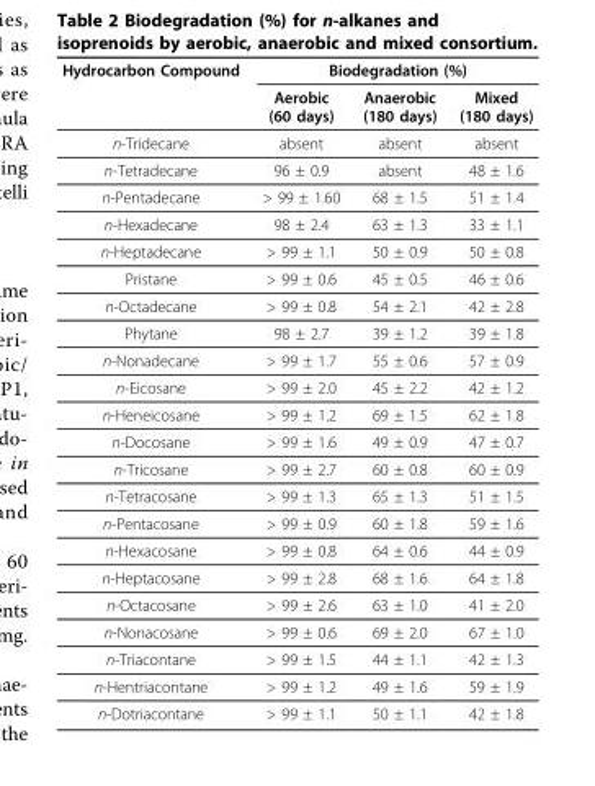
<table><thead><tr><td rowspan="2">Hydrocarbon Compound</td><td colspan="3">Biodegradation (%)</td></tr><tr><td>Aerobic (60 days)</td><td>Anaerobic (180 days)</td><td>Mixed (180 days)</td></tr></thead><tbody><tr><td>n-Tridecane</td><td>absent</td><td>absent</td><td>absent</td></tr><tr><td>n-Tetradecane</td><td>96 ± 0.9</td><td>absent</td><td>48 ± 1.6</td></tr><tr><td>n-Pentadecane</td><td>&gt; 99 ± 1.60</td><td>68 ± 1.5</td><td>51 ± 1.4</td></tr><tr><td>n-Hexadecane</td><td>98 ± 2.4</td><td>63 ± 1.3</td><td>33 ± 1.1</td></tr><tr><td>n-Heptadecane</td><td>&gt; 99 ± 1.1</td><td>50 ± 0.9</td><td>50 ± 0.8</td></tr><tr><td>Pristane</td><td>&gt; 99 ± 0.6</td><td>45 ± 0.5</td><td>46 ± 0.6</td></tr><tr><td>n-Octadecane</td><td>&gt; 99 ± 0.8</td><td>54 ± 2.1</td><td>42 ± 2.8</td></tr><tr><td>Phytane</td><td>98 ± 2.7</td><td>39 ± 1.2</td><td>39 ± 1.8</td></tr><tr><td>n-Nonadecane</td><td>&gt; 99 ± 1.7</td><td>55 ± 0.6</td><td>57 ± 0.9</td></tr><tr><td>n-Eicosane</td><td>&gt; 99 ± 2.0</td><td>45 ± 2.2</td><td>42 ± 1.2</td></tr><tr><td>n-Heneicosane</td><td>&gt; 99 ± 1.2</td><td>69 ± 1.5</td><td>62 ± 1.8</td></tr><tr><td>n-Docosane</td><td>&gt; 99 ± 1.6</td><td>49 ± 0.9</td><td>47 ± 0.7</td></tr><tr><td>n-Tricosane</td><td>&gt; 99 ± 2.7</td><td>60 ± 0.8</td><td>60 ± 0.9</td></tr><tr><td>n-Tetracosane</td><td>&gt; 99 ± 1.3</td><td>65 ± 1.3</td><td>51 ± 1.5</td></tr><tr><td>n-Pentacosane</td><td>&gt; 99 ± 0.9</td><td>60 ± 1.8</td><td>59 ± 1.6</td></tr><tr><td>n-Hexacosane</td><td>&gt; 99 ± 0.8</td><td>64 ± 0.6</td><td>44 ± 0.9</td></tr><tr><td>n-Heptacosane</td><td>&gt; 99 ± 2.8</td><td>68 ± 1.6</td><td>64 ± 1.8</td></tr><tr><td>n-Octacosane</td><td>&gt; 99 ± 2.6</td><td>63 ± 1.0</td><td>41 ± 2.0</td></tr><tr><td>n-Nonacosane</td><td>&gt; 99 ± 0.6</td><td>69 ± 2.0</td><td>67 ± 1.0</td></tr><tr><td>n-Triacontane</td><td>&gt; 99 ± 1.5</td><td>44 ± 1.1</td><td>42 ± 1.3</td></tr><tr><td>n-Hentriacontane</td><td>&gt; 99 ± 1.2</td><td>49 ± 1.6</td><td>59 ± 1.9</td></tr><tr><td>n-Dotriacontane</td><td>&gt; 99 ± 1.1</td><td>50 ± 1.1</td><td>42 ± 1.8</td></tr></tbody></table>